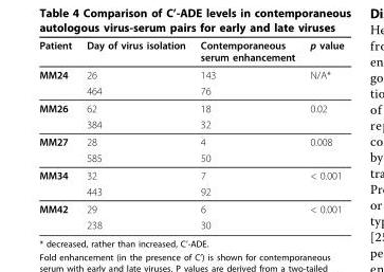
<table><thead><tr><td>Patient</td><td>Day of virus isolation</td><td>Contemporaneous serum enhancement</td><td>p value</td></tr></thead><tbody><tr><td rowspan="2">MM24</td><td>26</td><td>143</td><td>N/A*</td></tr><tr><td>464</td><td>76</td><td></td></tr><tr><td rowspan="2">MM26</td><td>62</td><td>18</td><td>0.02</td></tr><tr><td>384</td><td>32</td><td></td></tr><tr><td rowspan="2">MM27</td><td>28</td><td>4</td><td>0.008</td></tr><tr><td>585</td><td>50</td><td></td></tr><tr><td rowspan="2">MM34</td><td>32</td><td>7</td><td>&lt; 0.001</td></tr><tr><td>443</td><td>92</td><td></td></tr><tr><td rowspan="2">MM42</td><td>29</td><td>6</td><td>&lt; 0.001</td></tr><tr><td>238</td><td>30</td><td></td></tr></tbody></table>